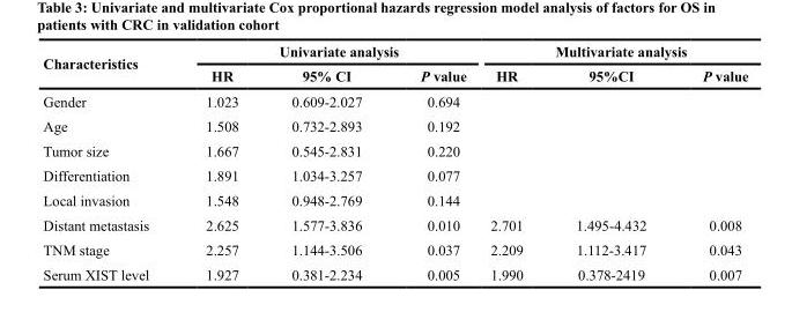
<table><thead><tr><td rowspan="2">Characteristics</td><td colspan="3">Univariate analysis</td><td colspan="3">Multivariate analysis</td></tr><tr><td>HR</td><td>95% CI</td><td>P value</td><td>HR</td><td>95%CI</td><td>P value</td></tr></thead><tbody><tr><td>Gender</td><td>1.023</td><td>0.609-2.027</td><td>0.694</td><td></td><td></td><td></td></tr><tr><td>Age</td><td>1.508</td><td>0.732-2.893</td><td>0.192</td><td></td><td></td><td></td></tr><tr><td>Tumor size</td><td>1.667</td><td>0.545-2.831</td><td>0.220</td><td></td><td></td><td></td></tr><tr><td>Differentiation</td><td>1.891</td><td>1.034-3.257</td><td>0.077</td><td></td><td></td><td></td></tr><tr><td>Local invasion</td><td>1.548</td><td>0.948-2.769</td><td>0.144</td><td></td><td></td><td></td></tr><tr><td>Distant metastasis</td><td>2.625</td><td>1.577-3.836</td><td>0.010</td><td>2.701</td><td>1.495-4.432</td><td>0.008</td></tr><tr><td>TNM stage</td><td>2.257</td><td>1.144-3.506</td><td>0.037</td><td>2.209</td><td>1.112-3.417</td><td>0.043</td></tr><tr><td>Serum XIST level</td><td>1.927</td><td>0.381-2.234</td><td>0.005</td><td>1.990</td><td>0.378-2419</td><td>0.007</td></tr></tbody></table>